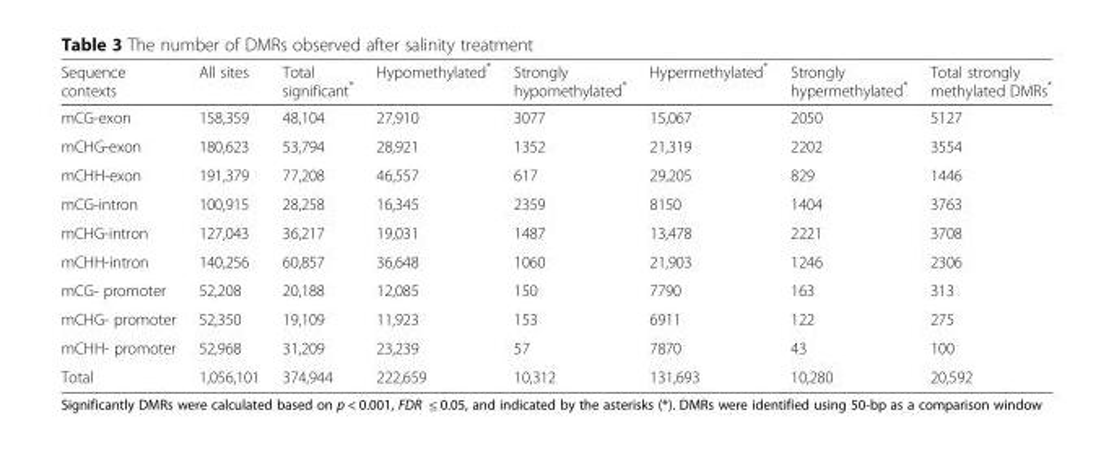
<table><thead><tr><td>Sequence contexts</td><td>All sites</td><td>Total significant*</td><td>Hypomethylated*</td><td>Strongly hypomethylated*</td><td>Hypermethylated*</td><td>Strongly hypermethylated*</td><td>Total strongly methylated DMRs*</td></tr></thead><tbody><tr><td>mCG-exon</td><td>158,359</td><td>48,104</td><td>27,910</td><td>3077</td><td>15,067</td><td>2050</td><td>5127</td></tr><tr><td>mCHG-exon</td><td>180,623</td><td>53,794</td><td>28,921</td><td>1352</td><td>21,319</td><td>2202</td><td>3554</td></tr><tr><td>mCHH-exon</td><td>191,379</td><td>77,208</td><td>46,557</td><td>617</td><td>29,205</td><td>829</td><td>1446</td></tr><tr><td>mCG-intron</td><td>100,915</td><td>28,258</td><td>16,345</td><td>2359</td><td>8150</td><td>1404</td><td>3763</td></tr><tr><td>mCHG-intron</td><td>127,043</td><td>36,217</td><td>19,031</td><td>1487</td><td>13,478</td><td>2221</td><td>3708</td></tr><tr><td>mCHH-intron</td><td>140,256</td><td>60,857</td><td>36,648</td><td>1060</td><td>21,903</td><td>1246</td><td>2306</td></tr><tr><td>mCG- promoter</td><td>52,208</td><td>20,188</td><td>12,085</td><td>150</td><td>7790</td><td>163</td><td>313</td></tr><tr><td>mCHG- promoter</td><td>52,350</td><td>19,109</td><td>11,923</td><td>153</td><td>6911</td><td>122</td><td>275</td></tr><tr><td>mCHH- promoter</td><td>52,968</td><td>31,209</td><td>23,239</td><td>57</td><td>7870</td><td>43</td><td>100</td></tr><tr><td>Total</td><td>1,056,101</td><td>374,944</td><td>222,659</td><td>10,312</td><td>131,693</td><td>10,280</td><td>20,592</td></tr></tbody></table>